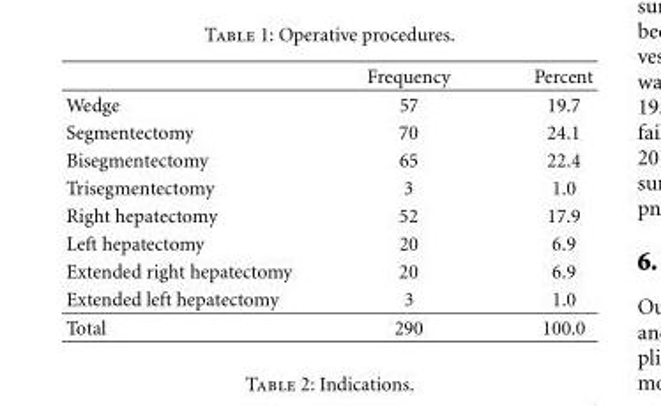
<table><thead><tr><td></td><td>Frequency</td><td>Percent</td></tr></thead><tbody><tr><td>Wedge</td><td>57</td><td>19.7</td></tr><tr><td>Segmentectomy</td><td>70</td><td>24.1</td></tr><tr><td>Bisegmentectomy</td><td>65</td><td>22.4</td></tr><tr><td>Trisegmentectomy</td><td>3</td><td>1.0</td></tr><tr><td>Right hepatectomy</td><td>52</td><td>17.9</td></tr><tr><td>Left hepatectomy</td><td>20</td><td>6.9</td></tr><tr><td>Extended right hepatectomy</td><td>20</td><td>6.9</td></tr><tr><td>Extended left hepatectomy</td><td>3</td><td>1.0</td></tr><tr><td>Total</td><td>290</td><td>100.0</td></tr></tbody></table>